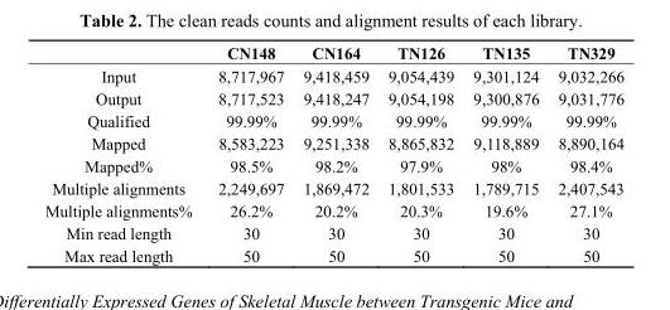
<table><thead><tr><td></td><td>CN148</td><td>CN164</td><td>TN126</td><td>TN135</td><td>TN329</td></tr></thead><tbody><tr><td>Input</td><td>8,717,967</td><td>9,418,459</td><td>9,054,439</td><td>9,301,124</td><td>9,032,266</td></tr><tr><td>Output</td><td>8,717,523</td><td>9,418,247</td><td>9,054,198</td><td>9,300,876</td><td>9,031,776</td></tr><tr><td>Qualified</td><td>99.99%</td><td>99.99%</td><td>99.99%</td><td>99.99%</td><td>99.99%</td></tr><tr><td>Mapped</td><td>8,583,223</td><td>9,251,338</td><td>8,865,832</td><td>9,118,889</td><td>8,890,164</td></tr><tr><td>Mapped%</td><td>98.5%</td><td>98.2%</td><td>97.9%</td><td>98%</td><td>98.4%</td></tr><tr><td>Multiple alignments</td><td>2,249,697</td><td>1,869,472</td><td>1,801,533</td><td>1,789,715</td><td>2,407,543</td></tr><tr><td>Multiple alignments%</td><td>26.2%</td><td>20.2%</td><td>20.3%</td><td>19.6%</td><td>27.1%</td></tr><tr><td>Min read length</td><td>30</td><td>30</td><td>30</td><td>30</td><td>30</td></tr><tr><td>Max read length</td><td>50</td><td>50</td><td>50</td><td>50</td><td>50</td></tr></tbody></table>